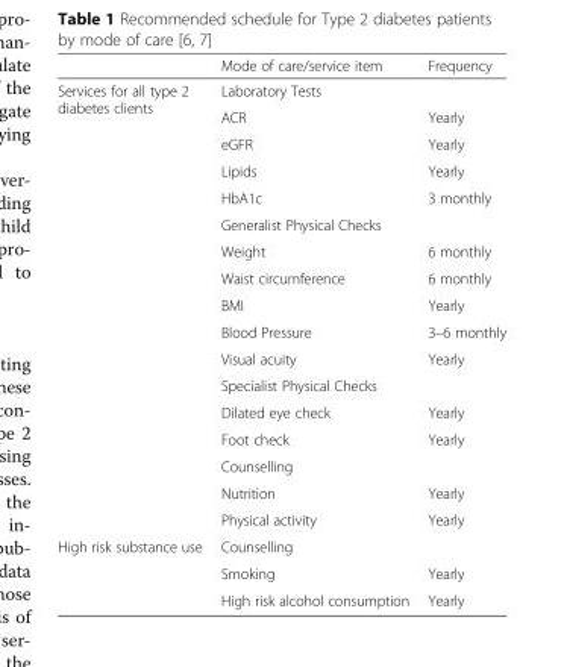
<table><thead><tr><td></td><td>Mode of care/service item</td><td>Frequency</td></tr></thead><tbody><tr><td rowspan="17">Services for all type 2 diabetes clients</td><td colspan="2">Laboratory Tests</td></tr><tr><td>ACR</td><td>Yearly</td></tr><tr><td>eGFR</td><td>Yearly</td></tr><tr><td>Lipids</td><td>Yearly</td></tr><tr><td>HbA1c</td><td>3 monthly</td></tr><tr><td colspan="2">Generalist Physical Checks</td></tr><tr><td>Weight</td><td>6 monthly</td></tr><tr><td>Waist circumference</td><td>6 monthly</td></tr><tr><td>BMI</td><td>Yearly</td></tr><tr><td>Blood Pressure</td><td>3–6 monthly</td></tr><tr><td>Visual acuity</td><td>Yearly</td></tr><tr><td colspan="2">Specialist Physical Checks</td></tr><tr><td>Dilated eye check</td><td>Yearly</td></tr><tr><td>Foot check</td><td>Yearly</td></tr><tr><td colspan="2">Counselling</td></tr><tr><td>Nutrition</td><td>Yearly</td></tr><tr><td>Physical activity</td><td>Yearly</td></tr><tr><td rowspan="3">High risk substance use</td><td colspan="2">Counselling</td></tr><tr><td>Smoking</td><td>Yearly</td></tr><tr><td>High risk alcohol consumption</td><td>Yearly</td></tr></tbody></table>